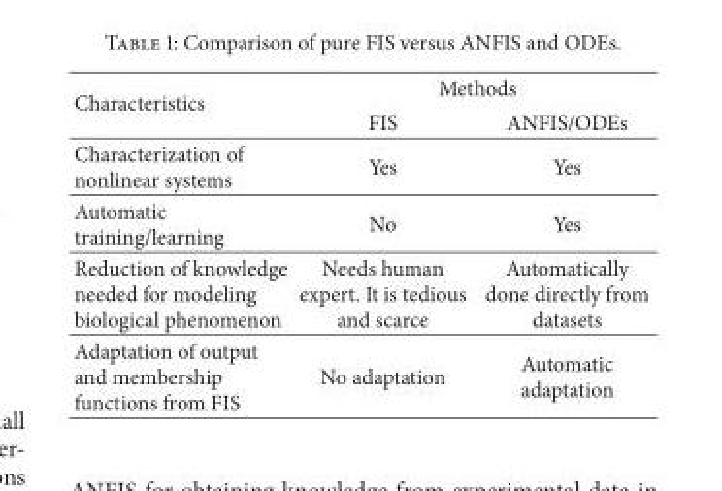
<table><thead><tr><td rowspan="2">Characteristics</td><td colspan="2">Methods</td></tr><tr><td>FIS</td><td>ANFIS/ODEs</td></tr></thead><tbody><tr><td>Characterization of nonlinear systems</td><td>Yes</td><td>Yes</td></tr><tr><td>Automatic training/learning</td><td>No</td><td>Yes</td></tr><tr><td>Reduction of knowledge needed for modeling biological phenomenon</td><td>Needs human expert. It is tedious and scarce</td><td>Automatically done directly from datasets</td></tr><tr><td>Adaptation of output and membership functions from FIS</td><td>No adaptation</td><td>Automatic adaptation</td></tr></tbody></table>